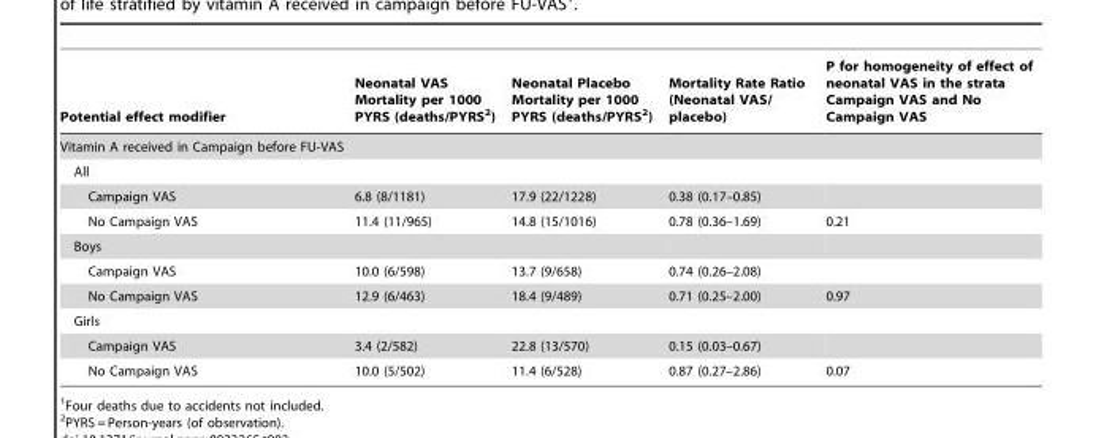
<table><thead><tr><td>Potential effect modifier</td><td>Neonatal VAS Mortality per 1000 PYRS (deaths/PYRS<sup>2</sup>)</td><td>Neonatal Placebo Mortality per 1000 PYRS (deaths/PYRS<sup>2</sup>)</td><td>Mortality Rate Ratio (Neonatal VAS/ placebo)</td><td>P for homogeneity of effect of neonatal VAS in the strata Campaign VAS and No Campaign VAS</td></tr></thead><tbody><tr><td colspan="5">Vitamin A received in Campaign before FU-VAS</td></tr><tr><td colspan="5">All</td></tr><tr><td>Campaign VAS</td><td>6.8 (8/1181)</td><td>17.9 (22/1228)</td><td>0.38 (0.17–0.85)</td><td></td></tr><tr><td>No Campaign VAS</td><td>11.4 (11/965)</td><td>14.8 (15/1016)</td><td>0.78 (0.36–1.69)</td><td>0.21</td></tr><tr><td colspan="5">Boys</td></tr><tr><td>Campaign VAS</td><td>10.0 (6/598)</td><td>13.7 (9/658)</td><td>0.74 (0.26–2.08)</td><td></td></tr><tr><td>No Campaign VAS</td><td>12.9 (6/463)</td><td>18.4 (9/489)</td><td>0.71 (0.25–2.00)</td><td>0.97</td></tr><tr><td colspan="5">Girls</td></tr><tr><td>Campaign VAS</td><td>3.4 (2/582)</td><td>22.8 (13/570)</td><td>0.15 (0.03–0.67)</td><td></td></tr><tr><td>No Campaign VAS</td><td>10.0 (5/502)</td><td>11.4 (6/528)</td><td>0.87 (0.27–2.86)</td><td>0.07</td></tr></tbody></table>